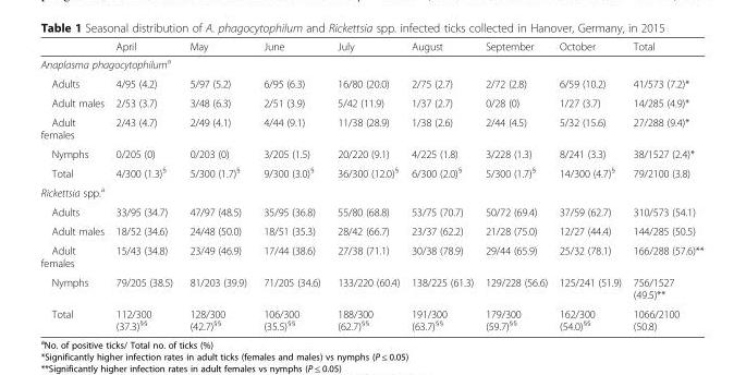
<table><thead><tr><td></td><td>April</td><td>May</td><td>June</td><td>July</td><td>August</td><td>September</td><td>October</td><td>Total</td></tr></thead><tbody><tr><td colspan="9">Anaplasma phagocytophilum<sup>a</sup></td></tr><tr><td>Adults</td><td>4/95 (4.2)</td><td>5/97 (5.2)</td><td>6/95 (6.3)</td><td>16/80 (20.0)</td><td>2/75 (2.7)</td><td>2/72 (2.8)</td><td>6/59 (10.2)</td><td>41/573 (7.2)*</td></tr><tr><td>Adult males</td><td>2/53 (3.7)</td><td>3/48 (6.3)</td><td>2/51 (3.9)</td><td>5/42 (11.9)</td><td>1/37 (2.7)</td><td>0/28 (0)</td><td>1/27 (3.7)</td><td>14/285 (4.9)*</td></tr><tr><td>Adult females</td><td>2/43 (4.7)</td><td>2/49 (4.1)</td><td>4/44 (9.1)</td><td>11/38 (28.9)</td><td>1/38 (2.6)</td><td>2/44 (4.5)</td><td>5/32 (15.6)</td><td>27/288 (9.4)*</td></tr><tr><td>Nymphs</td><td>0/205 (0)</td><td>0/203 (0)</td><td>3/205 (1.5)</td><td>20/220 (9.1)</td><td>4/225 (1.8)</td><td>3/228 (1.3)</td><td>8/241 (3.3)</td><td>38/1527 (2.4)*</td></tr><tr><td>Total</td><td>4/300 (1.3)<sup>§</sup></td><td>5/300 (1.7)<sup>§</sup></td><td>9/300 (3.0)<sup>§</sup></td><td>36/300 (12.0)<sup>§</sup></td><td>6/300 (2.0)<sup>§</sup></td><td>5/300 (1.7)<sup>§</sup></td><td>14/300 (4.7)<sup>§</sup></td><td>79/2100 (3.8)</td></tr><tr><td colspan="9">Rickettsia spp.<sup>a</sup></td></tr><tr><td>Adults</td><td>33/95 (34.7)</td><td>47/97 (48.5)</td><td>35/95 (36.8)</td><td>55/80 (68.8)</td><td>53/75 (70.7)</td><td>50/72 (69.4)</td><td>37/59 (62.7)</td><td>310/573 (54.1)</td></tr><tr><td>Adult males</td><td>18/52 (34.6)</td><td>24/48 (50.0)</td><td>18/51 (35.3)</td><td>28/42 (66.7)</td><td>23/37 (62.2)</td><td>21/28 (75.0)</td><td>12/27 (44.4)</td><td>144/285 (50.5)</td></tr><tr><td>Adult females</td><td>15/43 (34.8)</td><td>23/49 (46.9)</td><td>17/44 (38.6)</td><td>27/38 (71.1)</td><td>30/38 (78.9)</td><td>29/44 (65.9)</td><td>25/32 (78.1)</td><td>166/288 (57.6)**</td></tr><tr><td>Nymphs</td><td>79/205 (38.5)</td><td>81/203 (39.9)</td><td>71/205 (34.6)</td><td>133/220 (60.4)</td><td>138/225 (61.3)</td><td>129/228 (56.6)</td><td>125/241 (51.9)</td><td>756/1527 (49.5)**</td></tr><tr><td>Total</td><td>112/300 (37.3)<sup>§§</sup></td><td>128/300 (42.7)<sup>§§</sup></td><td>106/300 (35.5)<sup>§§</sup></td><td>188/300 (62.7)<sup>§§</sup></td><td>191/300 (63.7)<sup>§§</sup></td><td>179/300 (59.7)<sup>§§</sup></td><td>162/300 (54.0)<sup>§§</sup></td><td>1066/2100 (50.8)</td></tr></tbody></table>